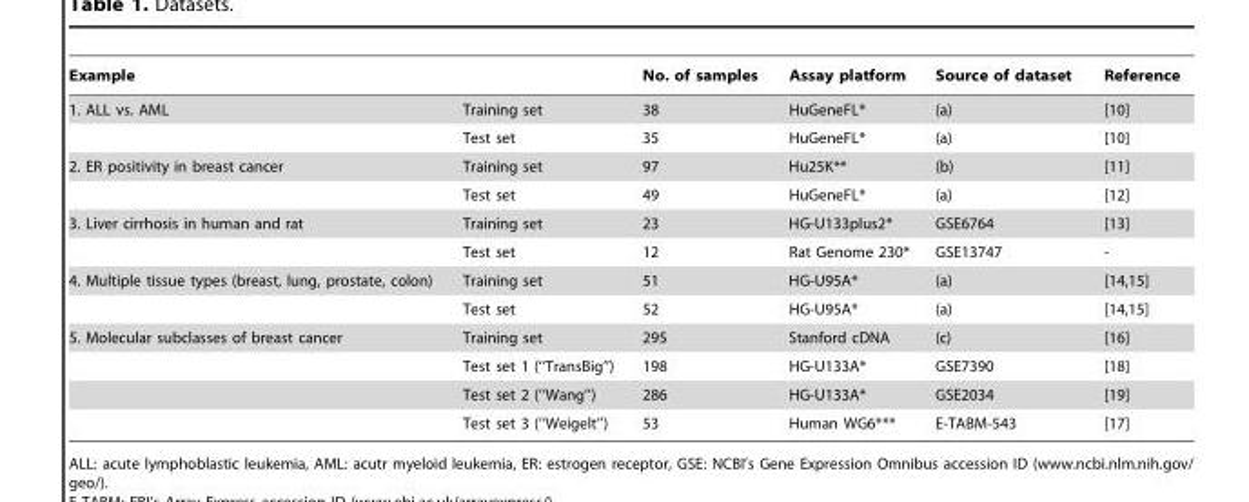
<table><thead><tr><td>Example</td><td></td><td>No. of samples</td><td>Assay platform</td><td>Source of dataset</td><td>Reference</td></tr></thead><tbody><tr><td rowspan="2">1. ALL vs. AML</td><td>Training set</td><td>38</td><td>HuGeneFL*</td><td>(a)</td><td>[10]</td></tr><tr><td>Test set</td><td>35</td><td>HuGeneFL*</td><td>(a)</td><td>[10]</td></tr><tr><td rowspan="2">2. ER positivity in breast cancer</td><td>Training set</td><td>97</td><td>Hu25K**</td><td>(b)</td><td>[11]</td></tr><tr><td>Test set</td><td>49</td><td>HuGeneFL*</td><td>(a)</td><td>[12]</td></tr><tr><td rowspan="2">3. Liver cirrhosis in human and rat</td><td>Training set</td><td>23</td><td>HG-U133plus2*</td><td>GSE6764</td><td>[13]</td></tr><tr><td>Test set</td><td>12</td><td>Rat Genome 230*</td><td>GSE13747</td><td>-</td></tr><tr><td rowspan="2">4. Multiple tissue types (breast, lung, prostate, colon)</td><td>Training set</td><td>51</td><td>HG-U95A*</td><td>(a)</td><td>[14,15]</td></tr><tr><td>Test set</td><td>52</td><td>HG-U95A*</td><td>(a)</td><td>[14,15]</td></tr><tr><td rowspan="4">5. Molecular subclasses of breast cancer</td><td>Training set</td><td>295</td><td>Stanford cDNA</td><td>(c)</td><td>[16]</td></tr><tr><td>Test set 1 (‘‘TransBig’’)</td><td>198</td><td>HG-U133A*</td><td>GSE7390</td><td>[18]</td></tr><tr><td>Test set 2 (‘‘Wang’’)</td><td>286</td><td>HG-U133A*</td><td>GSE2034</td><td>[19]</td></tr><tr><td>Test set 3 (‘‘Weigelt’’)</td><td>53</td><td>Human WG6***</td><td>E-TABM-543</td><td>[17]</td></tr></tbody></table>